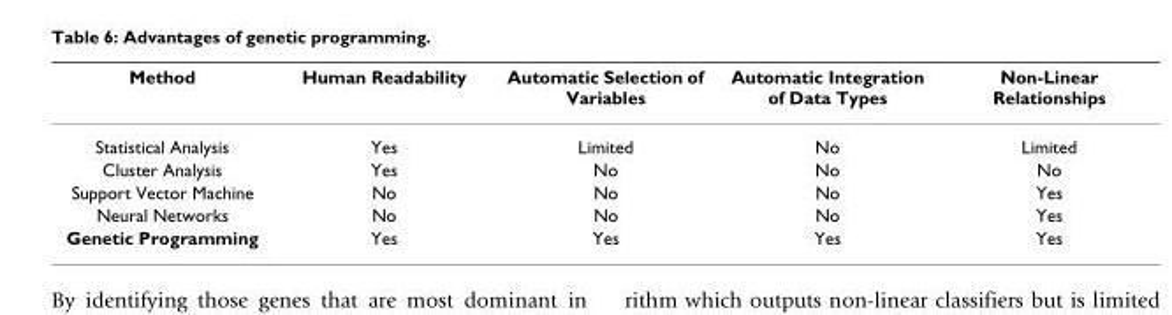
<table><thead><tr><td>Method</td><td>Human Readability</td><td>Automatic Selection of Variables</td><td>Automatic Integration of Data Types</td><td>Non-Linear Relationships</td></tr></thead><tbody><tr><td>Statistical Analysis</td><td>Yes</td><td>Limited</td><td>No</td><td>Limited</td></tr><tr><td>Cluster Analysis</td><td>Yes</td><td>No</td><td>No</td><td>No</td></tr><tr><td>Support Vector Machine</td><td>No</td><td>No</td><td>No</td><td>Yes</td></tr><tr><td>Neural Networks</td><td>No</td><td>No</td><td>No</td><td>Yes</td></tr><tr><td>Genetic Programming</td><td>Yes</td><td>Yes</td><td>Yes</td><td>Yes</td></tr></tbody></table>